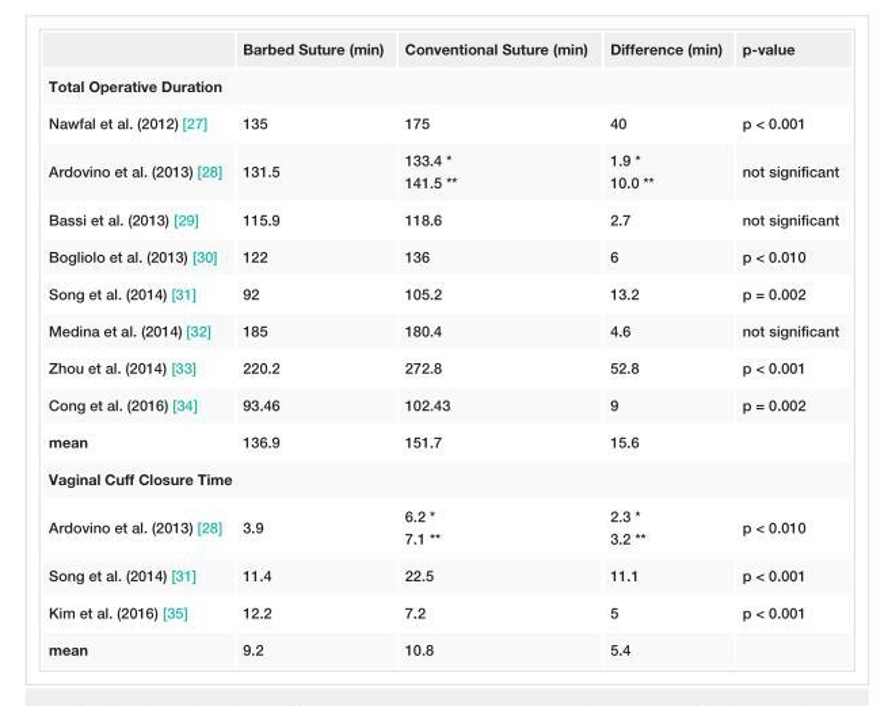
<table><thead><tr><td></td><td>Barbed Suture (min)</td><td>Conventional Suture (min)</td><td>Difference (min)</td><td>p-value</td></tr></thead><tbody><tr><td colspan="5">Total Operative Duration</td></tr><tr><td>Nawfal et al. (2012) [27]</td><td>135</td><td>175</td><td>40</td><td>p &lt; 0.001</td></tr><tr><td>Ardovino et al. (2013) [28]</td><td>131.5</td><td>133.4 * 141.5 **</td><td>1.9 * 10.0 **</td><td>not significant</td></tr><tr><td>Bassi et al. (2013) [29]</td><td>115.9</td><td>118.6</td><td>2.7</td><td>not significant</td></tr><tr><td>Bogliolo et al. (2013) [30]</td><td>122</td><td>136</td><td>6</td><td>p &lt; 0.010</td></tr><tr><td>Song et al. (2014) [31]</td><td>92</td><td>105.2</td><td>13.2</td><td>p = 0.002</td></tr><tr><td>Medina et al. (2014) [32]</td><td>185</td><td>180.4</td><td>4.6</td><td>not significant</td></tr><tr><td>Zhou et al. (2014) [33]</td><td>220.2</td><td>272.8</td><td>52.8</td><td>p &lt; 0.001</td></tr><tr><td>Cong et al. (2016) [34]</td><td>93.46</td><td>102.43</td><td>9</td><td>p = 0.002</td></tr><tr><td>mean</td><td>136.9</td><td>151.7</td><td>15.6</td><td></td></tr><tr><td colspan="5">Vaginal Cuff Closure Time</td></tr><tr><td>Ardovino et al. (2013) [28]</td><td>3.9</td><td>6.2 * 7.1 **</td><td>2.3 * 3.2 **</td><td>p &lt; 0.010</td></tr><tr><td>Song et al. (2014) [31]</td><td>11.4</td><td>22.5</td><td>11.1</td><td>p &lt; 0.001</td></tr><tr><td>Kim et al. (2016) [35]</td><td>12.2</td><td>7.2</td><td>5</td><td>p &lt; 0.001</td></tr><tr><td>mean</td><td>9.2</td><td>10.8</td><td>5.4</td><td></td></tr></tbody></table>